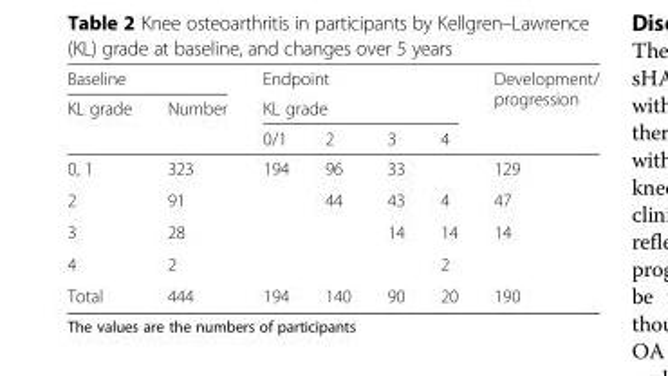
<table><thead><tr><td colspan="2">Baseline</td><td rowspan="2" colspan="4">Endpoint KL grade</td><td rowspan="3">Development/ progression</td></tr><tr><td rowspan="2">KL grade</td><td rowspan="2">Number</td></tr><tr><td>0/1</td><td>2</td><td>3</td><td>4</td></tr></thead><tbody><tr><td>0, 1</td><td>323</td><td>194</td><td>96</td><td>33</td><td></td><td>129</td></tr><tr><td>2</td><td>91</td><td></td><td>44</td><td>43</td><td>4</td><td>47</td></tr><tr><td>3</td><td>28</td><td></td><td></td><td>14</td><td>14</td><td>14</td></tr><tr><td>4</td><td>2</td><td></td><td></td><td></td><td>2</td><td></td></tr><tr><td>Total</td><td>444</td><td>194</td><td>140</td><td>90</td><td>20</td><td>190</td></tr></tbody></table>